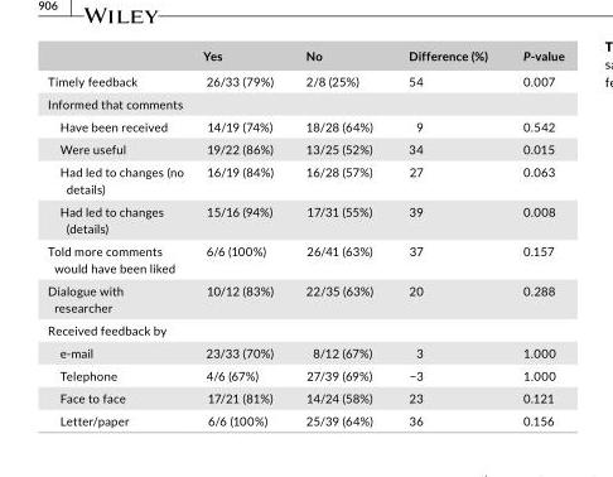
<table><thead><tr><td></td><td>Yes</td><td>No</td><td>Difference (%)</td><td>P- value</td></tr></thead><tbody><tr><td>Timely feedback</td><td>26/33 (79%)</td><td>2/8 (25%)</td><td>54</td><td>0.007</td></tr><tr><td colspan="5">Informed that comments</td></tr><tr><td>Have been received</td><td>14/19 (74%)</td><td>18/28 (64%)</td><td>9</td><td>0.542</td></tr><tr><td>Were useful</td><td>19/22 (86%)</td><td>13/25 (52%)</td><td>34</td><td>0.015</td></tr><tr><td>Had led to changes (no details)</td><td>16/19 (84%)</td><td>16/28 (57%)</td><td>27</td><td>0.063</td></tr><tr><td>Had led to changes (details)</td><td>15/16 (94%)</td><td>17/31 (55%)</td><td>39</td><td>0.008</td></tr><tr><td>Told more comments would have been liked</td><td>6/6 (100%)</td><td>26/41 (63%)</td><td>37</td><td>0.157</td></tr><tr><td>Dialogue with researcher</td><td>10/12 (83%)</td><td>22/35 (63%)</td><td>20</td><td>0.288</td></tr><tr><td colspan="5">Received feedback by</td></tr><tr><td>e-mail</td><td>23/33 (70%)</td><td>8/12 (67%)</td><td>3</td><td>1.000</td></tr><tr><td>Telephone</td><td>4/6 (67%)</td><td>27/39 (69%)</td><td>−3</td><td>1.000</td></tr><tr><td>Face to face</td><td>17/21 (81%)</td><td>14/24 (58%)</td><td>23</td><td>0.121</td></tr><tr><td>Letter/paper</td><td>6/6 (100%)</td><td>25/39 (64%)</td><td>36</td><td>0.156</td></tr></tbody></table>